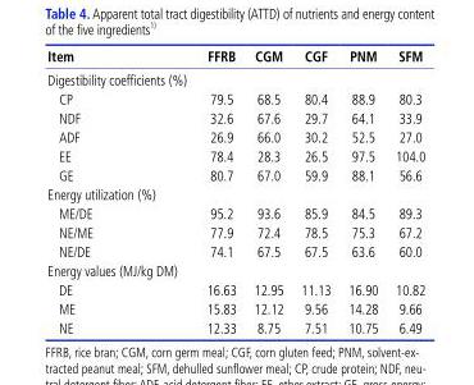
<table><thead><tr><td>Item</td><td>FFRB</td><td>CGM</td><td>CGF</td><td>PNM</td><td>SFM</td></tr></thead><tbody><tr><td colspan="6">Digestibility coefficients (%)</td></tr><tr><td>CP</td><td>79.5</td><td>68.5</td><td>80.4</td><td>88.9</td><td>80.3</td></tr><tr><td>NDF</td><td>32.6</td><td>67.6</td><td>29.7</td><td>64.1</td><td>33.9</td></tr><tr><td>ADF</td><td>26.9</td><td>66.0</td><td>30.2</td><td>52.5</td><td>27.0</td></tr><tr><td>EE</td><td>78.4</td><td>28.3</td><td>26.5</td><td>97.5</td><td>104.0</td></tr><tr><td>GE</td><td>80.7</td><td>67.0</td><td>59.9</td><td>88.1</td><td>56.6</td></tr><tr><td colspan="6">Energy utilization (%)</td></tr><tr><td>ME/DE</td><td>95.2</td><td>93.6</td><td>85.9</td><td>84.5</td><td>89.3</td></tr><tr><td>NE/ME</td><td>77.9</td><td>72.4</td><td>78.5</td><td>75.3</td><td>67.2</td></tr><tr><td>NE/DE</td><td>74.1</td><td>67.5</td><td>67.5</td><td>63.6</td><td>60.0</td></tr><tr><td colspan="6">Energy values (MJ/kg DM)</td></tr><tr><td>DE</td><td>16.63</td><td>12.95</td><td>11.13</td><td>16.90</td><td>10.82</td></tr><tr><td>ME</td><td>15.83</td><td>12.12</td><td>9.56</td><td>14.28</td><td>9.66</td></tr><tr><td>NE</td><td>12.33</td><td>8.75</td><td>7.51</td><td>10.75</td><td>6.49</td></tr></tbody></table>